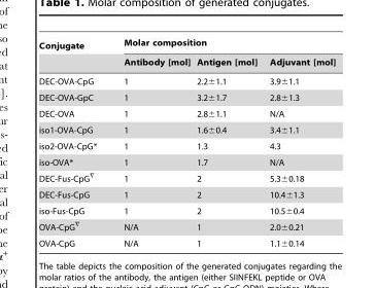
<table><thead><tr><td rowspan="2">Conjugate</td><td colspan="3">Molar composition</td></tr><tr><td>Antibody [mol]</td><td>Antigen [mol]</td><td>Adjuvant [mol]</td></tr></thead><tbody><tr><td>DEC-OVA-CpG</td><td>1</td><td>2.2±1.1</td><td>3.9±1.1</td></tr><tr><td>DEC-OVA-GpC</td><td>1</td><td>3.2±1.7</td><td>2.8±1.3</td></tr><tr><td>DEC-OVA</td><td>1</td><td>2.8±1.1</td><td>N/A</td></tr><tr><td>iso1-OVA-CpG</td><td>1</td><td>1.6±0.4</td><td>3.4±1.1</td></tr><tr><td>iso2-OVA-CpG*</td><td>1</td><td>1.3</td><td>4.3</td></tr><tr><td>iso-OVA*</td><td>1</td><td>1.7</td><td>N/A</td></tr><tr><td>DEC-Fus-CpG=</td><td>1</td><td>2</td><td>5.3±0.18</td></tr><tr><td>DEC-Fus-CpG</td><td>1</td><td>2</td><td>10.4±1.3</td></tr><tr><td>iso-Fus-CpG</td><td>1</td><td>2</td><td>10.5±0.4</td></tr><tr><td>OVA-CpG=</td><td>N/A</td><td>1</td><td>2.0±0.21</td></tr><tr><td>OVA-CpG</td><td>N/A</td><td>1</td><td>1.1±0.14</td></tr></tbody></table>